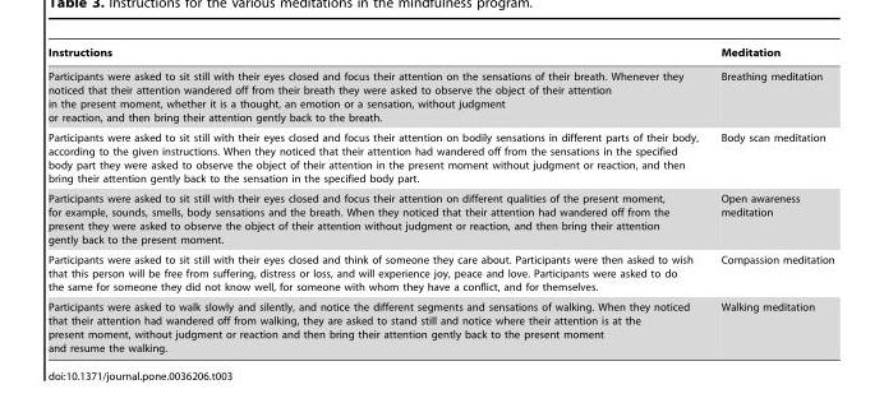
<table><thead><tr><td>Instructions</td><td>Meditation</td></tr></thead><tbody><tr><td>Participants were asked to sit still with their eyes closed and focus their attention on the sensations of their breath. Whenever they noticed that their attention wandered off from their breath they were asked to observe the object of their attention in the present moment, whether it is a thought, an emotion or a sensation, without judgment or reaction, and then bring their attention gently back to the breath.</td><td>Breathing meditation</td></tr><tr><td>Participants were asked to sit still with their eyes closed and focus their attention on bodily sensations in different parts of their body, according to the given instructions. When they noticed that their attention had wandered off from the sensations in the specified body part they were asked to observe the object of their attention in the present moment without judgment or reaction, and then bring their attention gently back to the sensation in the specified body part.</td><td>Body scan meditation</td></tr><tr><td>Participants were asked to sit still with their eyes closed and focus their attention on different qualities of the present moment, for example, sounds, smells, body sensations and the breath. When they noticed that their attention had wandered off from the present they were asked to observe the object of their attention without judgment or reaction, and then bring their attention gently back to the present moment.</td><td>Open awareness meditation</td></tr><tr><td>Participants were asked to sit still with their eyes closed and think of someone they care about. Participants were then asked to wish that this person will be free from suffering, distress or loss, and will experience joy, peace and love. Participants were asked to do the same for someone they did not know well, for someone with whom they have a conflict, and for themselves.</td><td>Compassion meditation</td></tr><tr><td>Participants were asked to walk slowly and silently, and notice the different segments and sensations of walking. When they noticed that their attention had wandered off from walking, they are asked to stand still and notice where their attention is at the present moment, without judgment or reaction and then bring their attention gently back to the present moment and resume the walking.</td><td>Walking meditation</td></tr></tbody></table>